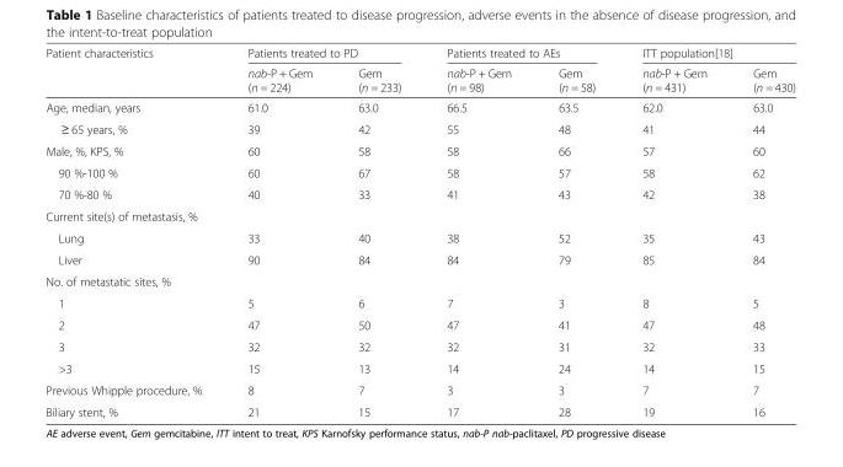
<table><thead><tr><td rowspan="2">Patient characteristics</td><td colspan="2">Patients treated to PD</td><td colspan="2">Patients treated to AEs</td><td colspan="2">ITT population[18]</td></tr><tr><td>nab-P + Gem (n = 224)</td><td>Gem (n = 233)</td><td>nab-P + Gem (n = 98)</td><td>Gem (n = 58)</td><td>nab-P + Gem (n = 431)</td><td>Gem (n = 430)</td></tr></thead><tbody><tr><td>Age, median, years</td><td>61.0</td><td>63.0</td><td>66.5</td><td>63.5</td><td>62.0</td><td>63.0</td></tr><tr><td>≥ 65 years, %</td><td>39</td><td>42</td><td>55</td><td>48</td><td>41</td><td>44</td></tr><tr><td>Male, %, KPS, %</td><td>60</td><td>58</td><td>58</td><td>66</td><td>57</td><td>60</td></tr><tr><td>90 %-100 %</td><td>60</td><td>67</td><td>58</td><td>57</td><td>58</td><td>62</td></tr><tr><td>70 %-80 %</td><td>40</td><td>33</td><td>41</td><td>43</td><td>42</td><td>38</td></tr><tr><td colspan="7">Current site(s) of metastasis, %</td></tr><tr><td>Lung</td><td>33</td><td>40</td><td>38</td><td>52</td><td>35</td><td>43</td></tr><tr><td>Liver</td><td>90</td><td>84</td><td>84</td><td>79</td><td>85</td><td>84</td></tr><tr><td colspan="7">No. of metastatic sites, %</td></tr><tr><td>1</td><td>5</td><td>6</td><td>7</td><td>3</td><td>8</td><td>5</td></tr><tr><td>2</td><td>47</td><td>50</td><td>47</td><td>41</td><td>47</td><td>48</td></tr><tr><td>3</td><td>32</td><td>32</td><td>32</td><td>31</td><td>32</td><td>33</td></tr><tr><td>&gt;3</td><td>15</td><td>13</td><td>14</td><td>24</td><td>14</td><td>15</td></tr><tr><td>Previous Whipple procedure, %</td><td>8</td><td>7</td><td>3</td><td>3</td><td>7</td><td>7</td></tr><tr><td>Biliary stent, %</td><td>21</td><td>15</td><td>17</td><td>28</td><td>19</td><td>16</td></tr></tbody></table>